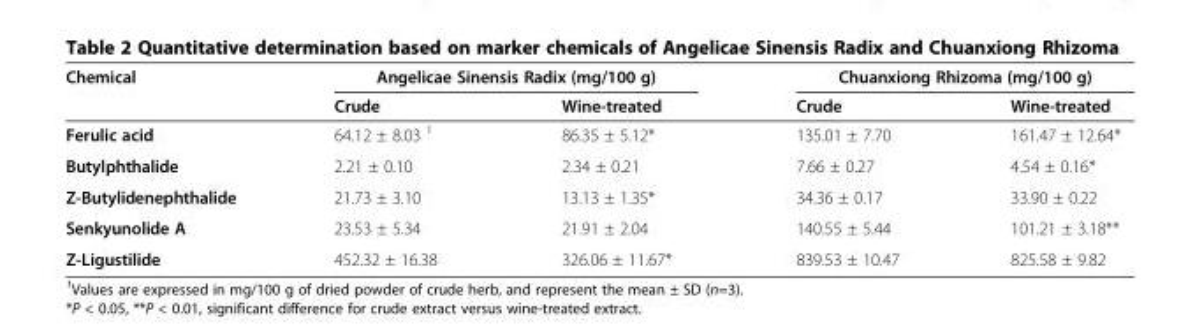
<table><thead><tr><td rowspan="2">Chemical</td><td colspan="2">Angelicae Sinensis Radix (mg/100 g)</td><td colspan="2">Chuanxiong Rhizoma (mg/100 g)</td></tr><tr><td>Crude</td><td>Wine-treated</td><td>Crude</td><td>Wine-treated</td></tr></thead><tbody><tr><td>Ferulic acid</td><td>64.12 ± 8.03 <sup>1</sup></td><td>86.35 ± 5.12*</td><td>135.01 ± 7.70</td><td>161.47 ± 12.64*</td></tr><tr><td>Butylphthalide</td><td>2.21 ± 0.10</td><td>2.34 ± 0.21</td><td>7.66 ± 0.27</td><td>4.54 ± 0.16*</td></tr><tr><td>Z-Butylidenephthalide</td><td>21.73 ± 3.10</td><td>13.13 ± 1.35*</td><td>34.36 ± 0.17</td><td>33.90 ± 0.22</td></tr><tr><td>Senkyunolide A</td><td>23.53 ± 5.34</td><td>21.91 ± 2.04</td><td>140.55 ± 5.44</td><td>101.21 ± 3.18**</td></tr><tr><td>Z-Ligustilide</td><td>452.32 ± 16.38</td><td>326.06 ± 11.67*</td><td>839.53 ± 10.47</td><td>825.58 ± 9.82</td></tr></tbody></table>